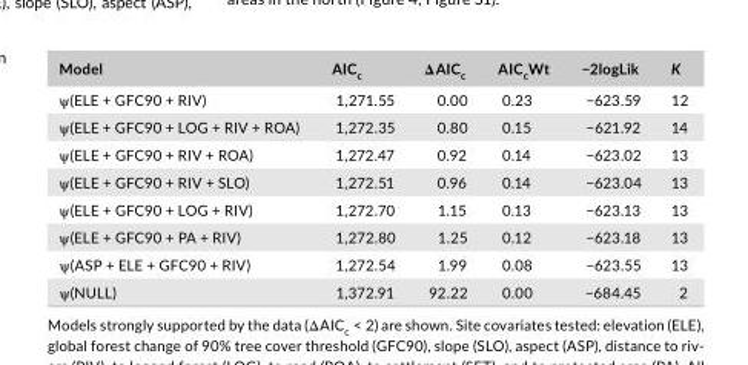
<table><thead><tr><td>Model</td><td>AIC<sub>c</sub></td><td>ΔAIC<sub>c</sub></td><td>AIC<sub>c</sub>Wt</td><td>−2logLik</td><td>K</td></tr></thead><tbody><tr><td>ψ(ELE + GFC90 + RIV)</td><td>1,271.55</td><td>0.00</td><td>0.23</td><td>−623.59</td><td>12</td></tr><tr><td>ψ(ELE + GFC90 + LOG + RIV + ROA)</td><td>1,272.35</td><td>0.80</td><td>0.15</td><td>−621.92</td><td>14</td></tr><tr><td>ψ(ELE + GFC90 + RIV + ROA)</td><td>1,272.47</td><td>0.92</td><td>0.14</td><td>−623.02</td><td>13</td></tr><tr><td>ψ(ELE + GFC90 + RIV + SLO)</td><td>1,272.51</td><td>0.96</td><td>0.14</td><td>−623.04</td><td>13</td></tr><tr><td>ψ(ELE + GFC90 + LOG + RIV)</td><td>1,272.70</td><td>1.15</td><td>0.13</td><td>−623.13</td><td>13</td></tr><tr><td>ψ(ELE + GFC90 + PA + RIV)</td><td>1,272.80</td><td>1.25</td><td>0.12</td><td>−623.18</td><td>13</td></tr><tr><td>ψ(ASP + ELE + GFC90 + RIV)</td><td>1,272.54</td><td>1.99</td><td>0.08</td><td>−623.55</td><td>13</td></tr><tr><td>ψ(NULL)</td><td>1,372.91</td><td>92.22</td><td>0.00</td><td>−684.45</td><td>2</td></tr></tbody></table>